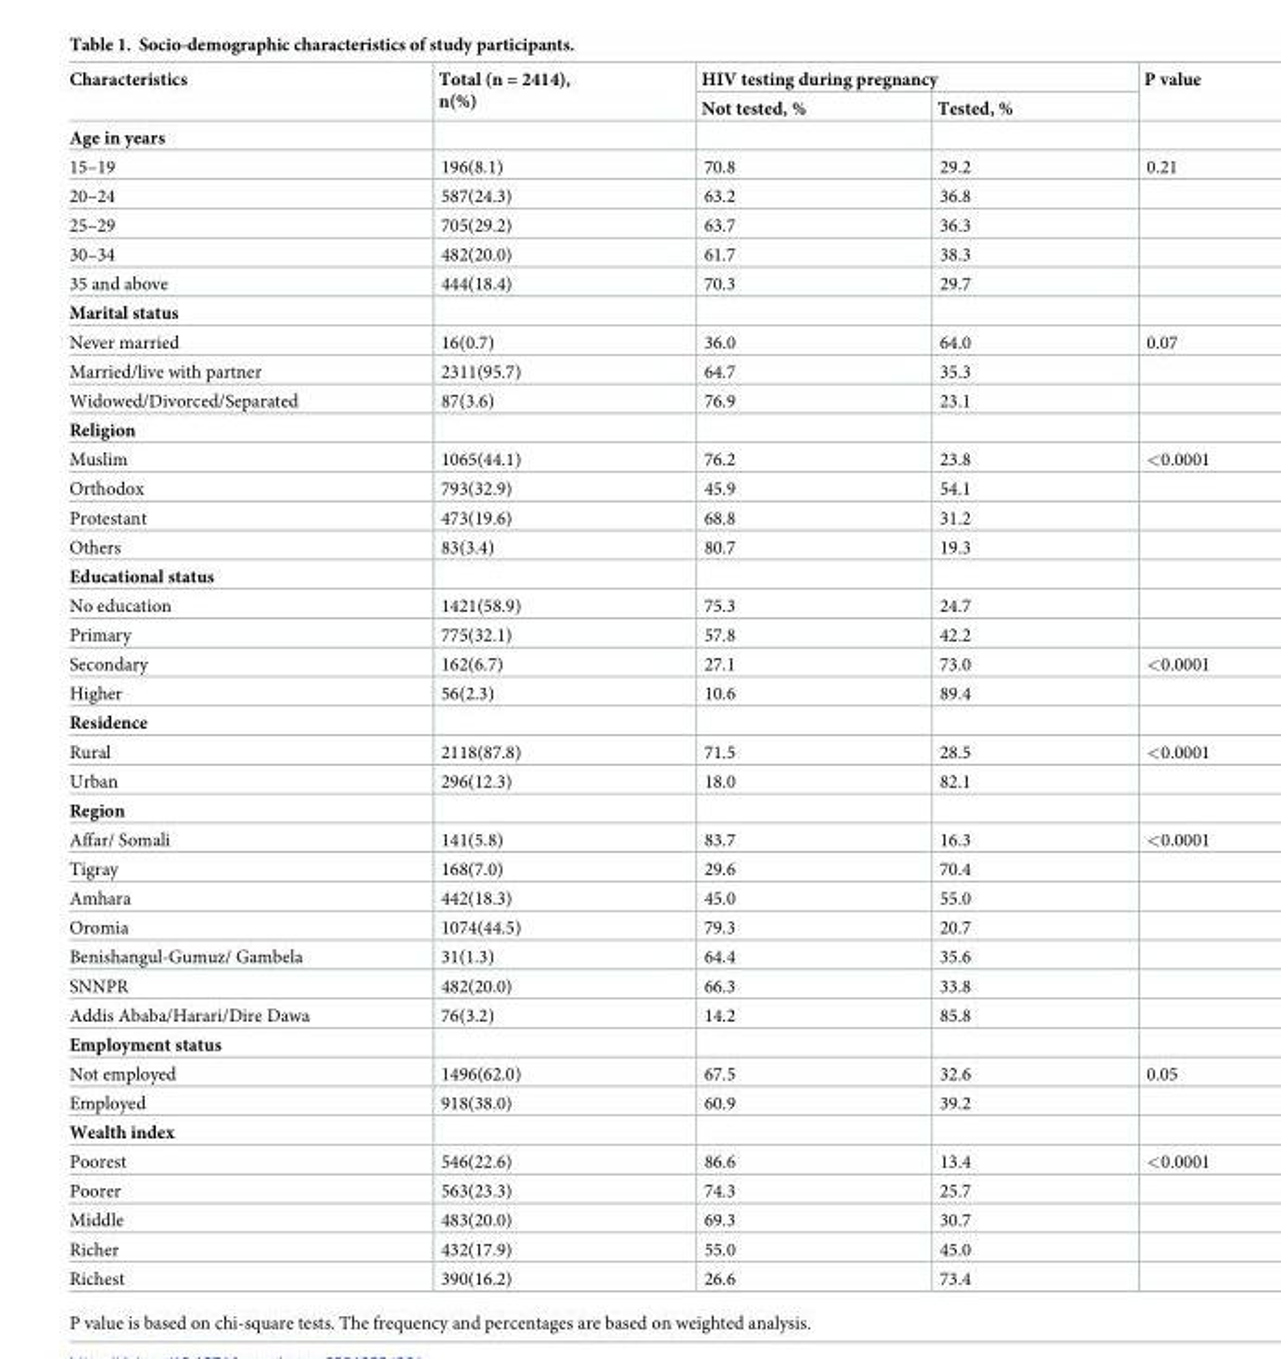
<table><thead><tr><td rowspan="2">Characteristics</td><td rowspan="2">Total (n = 2414), n(%)</td><td colspan="2">HIV testing during pregnancy</td><td rowspan="2">P value</td></tr><tr><td>Not tested, %</td><td>Tested, %</td></tr></thead><tbody><tr><td colspan="5">Age in years</td></tr><tr><td>15–19</td><td>196(8.1)</td><td>70.8</td><td>29.2</td><td>0.21</td></tr><tr><td>20–24</td><td>587(24.3)</td><td>63.2</td><td>36.8</td><td></td></tr><tr><td>25–29</td><td>705(29.2)</td><td>63.7</td><td>36.3</td><td></td></tr><tr><td>30–34</td><td>482(20.0)</td><td>61.7</td><td>38.3</td><td></td></tr><tr><td>35 and above</td><td>444(18.4)</td><td>70.3</td><td>29.7</td><td></td></tr><tr><td colspan="5">Marital status</td></tr><tr><td>Never married</td><td>16(0.7)</td><td>36.0</td><td>64.0</td><td>0.07</td></tr><tr><td>Married/live with partner</td><td>2311(95.7)</td><td>64.7</td><td>35.3</td><td></td></tr><tr><td>Widowed/Divorced/Separated</td><td>87(3.6)</td><td>76.9</td><td>23.1</td><td></td></tr><tr><td colspan="5">Religion</td></tr><tr><td>Muslim</td><td>1065(44.1)</td><td>76.2</td><td>23.8</td><td>&lt;0.0001</td></tr><tr><td>Orthodox</td><td>793(32.9)</td><td>45.9</td><td>54.1</td><td></td></tr><tr><td>Protestant</td><td>473(19.6)</td><td>68.8</td><td>31.2</td><td></td></tr><tr><td>Others</td><td>83(3.4)</td><td>80.7</td><td>19.3</td><td></td></tr><tr><td colspan="5">Educational status</td></tr><tr><td>No education</td><td>1421(58.9)</td><td>75.3</td><td>24.7</td><td></td></tr><tr><td>Primary</td><td>775(32.1)</td><td>57.8</td><td>42.2</td><td></td></tr><tr><td>Secondary</td><td>162(6.7)</td><td>27.1</td><td>73.0</td><td>&lt;0.0001</td></tr><tr><td>Higher</td><td>56(2.3)</td><td>10.6</td><td>89.4</td><td></td></tr><tr><td colspan="5">Residence</td></tr><tr><td>Rural</td><td>2118(87.8)</td><td>71.5</td><td>28.5</td><td>&lt;0.0001</td></tr><tr><td>Urban</td><td>296(12.3)</td><td>18.0</td><td>82.1</td><td></td></tr><tr><td colspan="5">Region</td></tr><tr><td>Affar/ Somali</td><td>141(5.8)</td><td>83.7</td><td>16.3</td><td>&lt;0.0001</td></tr><tr><td>Tigray</td><td>168(7.0)</td><td>29.6</td><td>70.4</td><td></td></tr><tr><td>Amhara</td><td>442(18.3)</td><td>45.0</td><td>55.0</td><td></td></tr><tr><td>Oromia</td><td>1074(44.5)</td><td>79.3</td><td>20.7</td><td></td></tr><tr><td>Benishangul-Gumuz/ Gambela</td><td>31(1.3)</td><td>64.4</td><td>35.6</td><td></td></tr><tr><td>SNNPR</td><td>482(20.0)</td><td>66.3</td><td>33.8</td><td></td></tr><tr><td>Addis Ababa/Harari/Dire Dawa</td><td>76(3.2)</td><td>14.2</td><td>85.8</td><td></td></tr><tr><td colspan="5">Employment status</td></tr><tr><td>Not employed</td><td>1496(62.0)</td><td>67.5</td><td>32.6</td><td>0.05</td></tr><tr><td>Employed</td><td>918(38.0)</td><td>60.9</td><td>39.2</td><td></td></tr><tr><td colspan="5">Wealth index</td></tr><tr><td>Poorest</td><td>546(22.6)</td><td>86.6</td><td>13.4</td><td>&lt;0.0001</td></tr><tr><td>Poorer</td><td>563(23.3)</td><td>74.3</td><td>25.7</td><td></td></tr><tr><td>Middle</td><td>483(20.0)</td><td>69.3</td><td>30.7</td><td></td></tr><tr><td>Richer</td><td>432(17.9)</td><td>55.0</td><td>45.0</td><td></td></tr><tr><td>Richest</td><td>390(16.2)</td><td>26.6</td><td>73.4</td><td></td></tr></tbody></table>